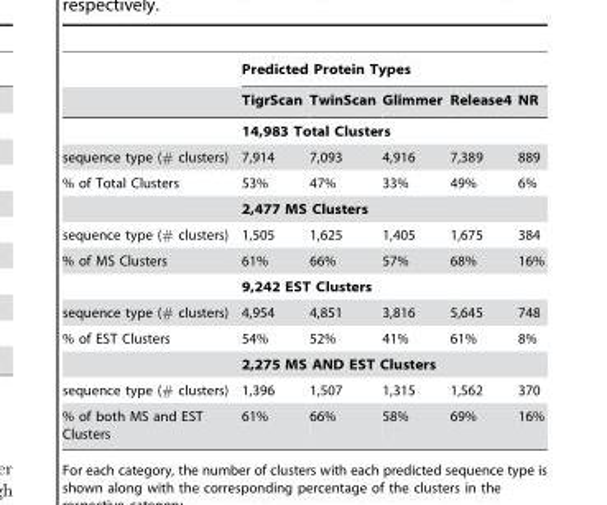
<table><thead><tr><td rowspan="2"></td><td colspan="5">Predicted Protein Types</td></tr><tr><td>TigrScan</td><td>TwinScan</td><td>Glimmer</td><td>Release4</td><td>NR</td></tr></thead><tbody><tr><td></td><td colspan="5">14,983 Total Clusters</td></tr><tr><td>sequence type (# clusters)</td><td>7,914</td><td>7,093</td><td>4,916</td><td>7,389</td><td>889</td></tr><tr><td rowspan="2">% of Total Clusters</td><td>53%</td><td>47%</td><td>33%</td><td>49%</td><td>6%</td></tr><tr><td colspan="5">2,477 MS Clusters</td></tr><tr><td>sequence type (# clusters)</td><td>1,505</td><td>1,625</td><td>1,405</td><td>1,675</td><td>384</td></tr><tr><td rowspan="2">% of MS Clusters</td><td>61%</td><td>66%</td><td>57%</td><td>68%</td><td>16%</td></tr><tr><td colspan="5">9,242 EST Clusters</td></tr><tr><td>sequence type (# clusters)</td><td>4,954</td><td>4,851</td><td>3,816</td><td>5,645</td><td>748</td></tr><tr><td rowspan="2">% of EST Clusters</td><td>54%</td><td>52%</td><td>41%</td><td>61%</td><td>8%</td></tr><tr><td colspan="5">2,275 MS AND EST Clusters</td></tr><tr><td>sequence type (# clusters)</td><td>1,396</td><td>1,507</td><td>1,315</td><td>1,562</td><td>370</td></tr><tr><td>% of both MS and EST Clusters</td><td>61%</td><td>66%</td><td>58%</td><td>69%</td><td>16%</td></tr></tbody></table>